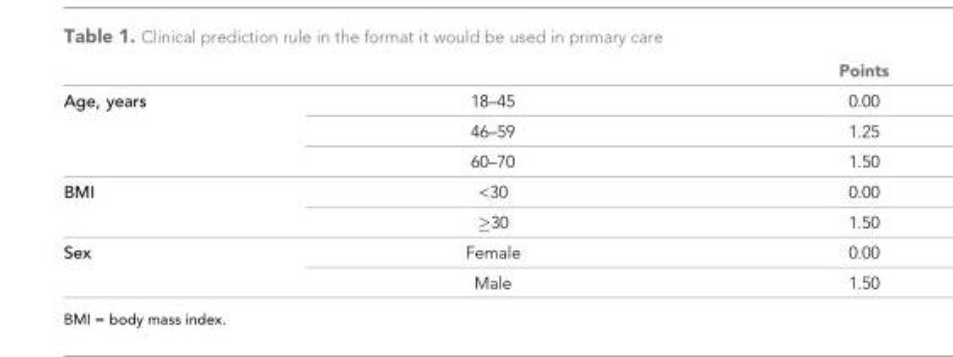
<table><thead><tr><td></td><td></td><td>Points</td></tr></thead><tbody><tr><td rowspan="3">Age, years</td><td>18–45</td><td>0.00</td></tr><tr><td>46–59</td><td>1.25</td></tr><tr><td>60–70</td><td>1.50</td></tr><tr><td rowspan="2">BMI</td><td>&lt;30</td><td>0.00</td></tr><tr><td>≥30</td><td>1.50</td></tr><tr><td rowspan="2">Sex</td><td>Female</td><td>0.00</td></tr><tr><td>Male</td><td>1.50</td></tr></tbody></table>